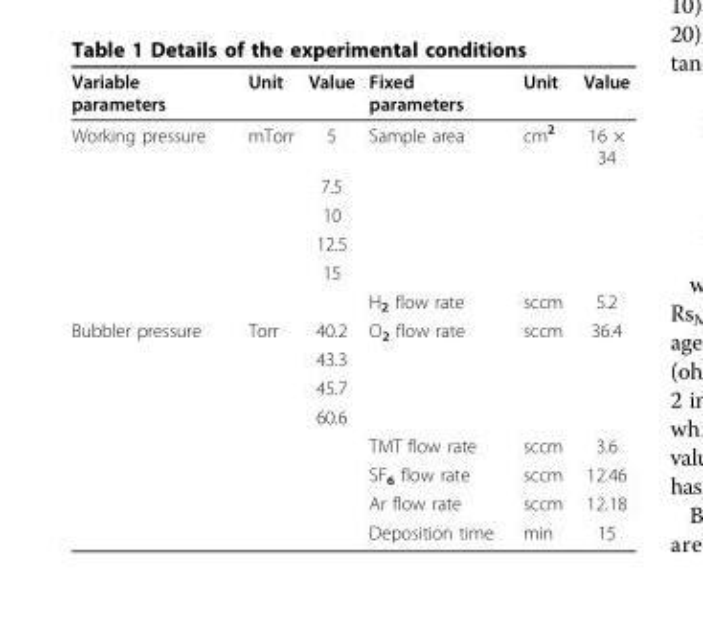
<table><thead><tr><td>Variable parameters</td><td>Unit</td><td>Value</td><td>Fixed parameters</td><td>Unit</td><td>Value</td></tr></thead><tbody><tr><td rowspan="6">Working pressure</td><td>mTorr</td><td>5</td><td>Sample area</td><td>cm<sup>2</sup></td><td>16 × 34</td></tr><tr><td></td><td>7.5</td><td></td><td></td><td></td></tr><tr><td></td><td>10</td><td></td><td></td><td></td></tr><tr><td></td><td>12.5</td><td></td><td></td><td></td></tr><tr><td></td><td>15</td><td></td><td></td><td></td></tr><tr><td></td><td></td><td>H<sub>2</sub> flow rate</td><td>sccm</td><td>5.2</td></tr><tr><td rowspan="8">Bubbler pressure</td><td>Torr</td><td>40.2</td><td>O<sub>2</sub> flow rate</td><td>sccm</td><td>36.4</td></tr><tr><td></td><td>43.3</td><td></td><td></td><td></td></tr><tr><td></td><td>45.7</td><td></td><td></td><td></td></tr><tr><td></td><td>60.6</td><td></td><td></td><td></td></tr><tr><td></td><td></td><td>TMT flow rate</td><td>sccm</td><td>3.6</td></tr><tr><td></td><td></td><td>SF<sub>6</sub> flow rate</td><td>sccm</td><td>12.46</td></tr><tr><td></td><td></td><td>Ar flow rate</td><td>sccm</td><td>12.18</td></tr><tr><td></td><td></td><td>Deposition time</td><td>min</td><td>15</td></tr></tbody></table>